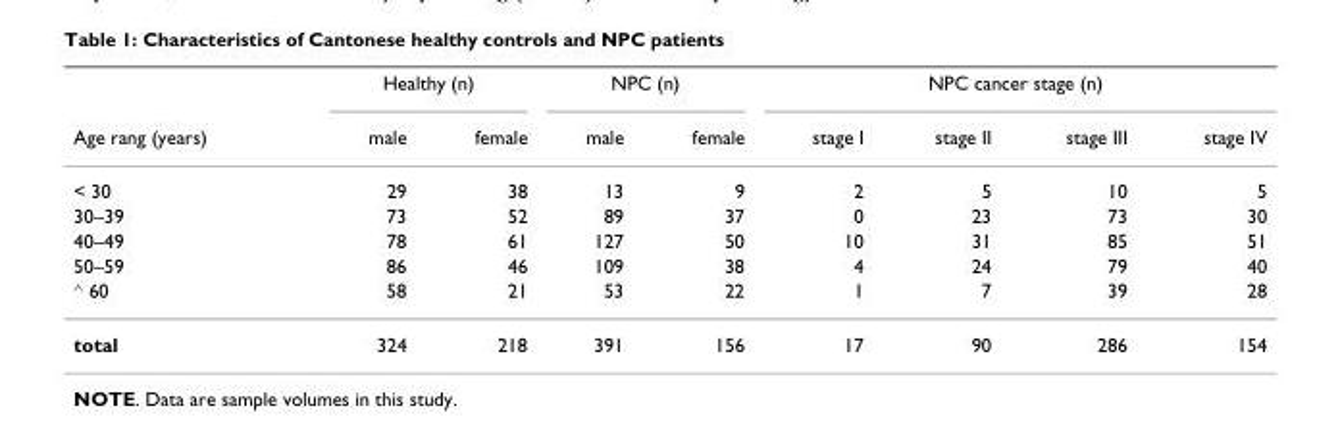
<table><thead><tr><td rowspan="2">Age rang (years)</td><td colspan="2">Healthy (n)</td><td colspan="2">NPC (n)</td><td colspan="4">NPC cancer stage (n)</td></tr><tr><td>male</td><td>female</td><td>male</td><td>female</td><td>stage I</td><td>stage II</td><td>stage III</td><td>stage IV</td></tr></thead><tbody><tr><td>&lt; 30</td><td>29</td><td>38</td><td>13</td><td>9</td><td>2</td><td>5</td><td>10</td><td>5</td></tr><tr><td>30–39</td><td>73</td><td>52</td><td>89</td><td>37</td><td>0</td><td>23</td><td>73</td><td>30</td></tr><tr><td>40–49</td><td>78</td><td>61</td><td>127</td><td>50</td><td>10</td><td>31</td><td>85</td><td>51</td></tr><tr><td>50–59</td><td>86</td><td>46</td><td>109</td><td>38</td><td>4</td><td>24</td><td>79</td><td>40</td></tr><tr><td>≧ 60</td><td>58</td><td>21</td><td>53</td><td>22</td><td>1</td><td>7</td><td>39</td><td>28</td></tr><tr><td>total</td><td>324</td><td>218</td><td>391</td><td>156</td><td>17</td><td>90</td><td>286</td><td>154</td></tr></tbody></table>